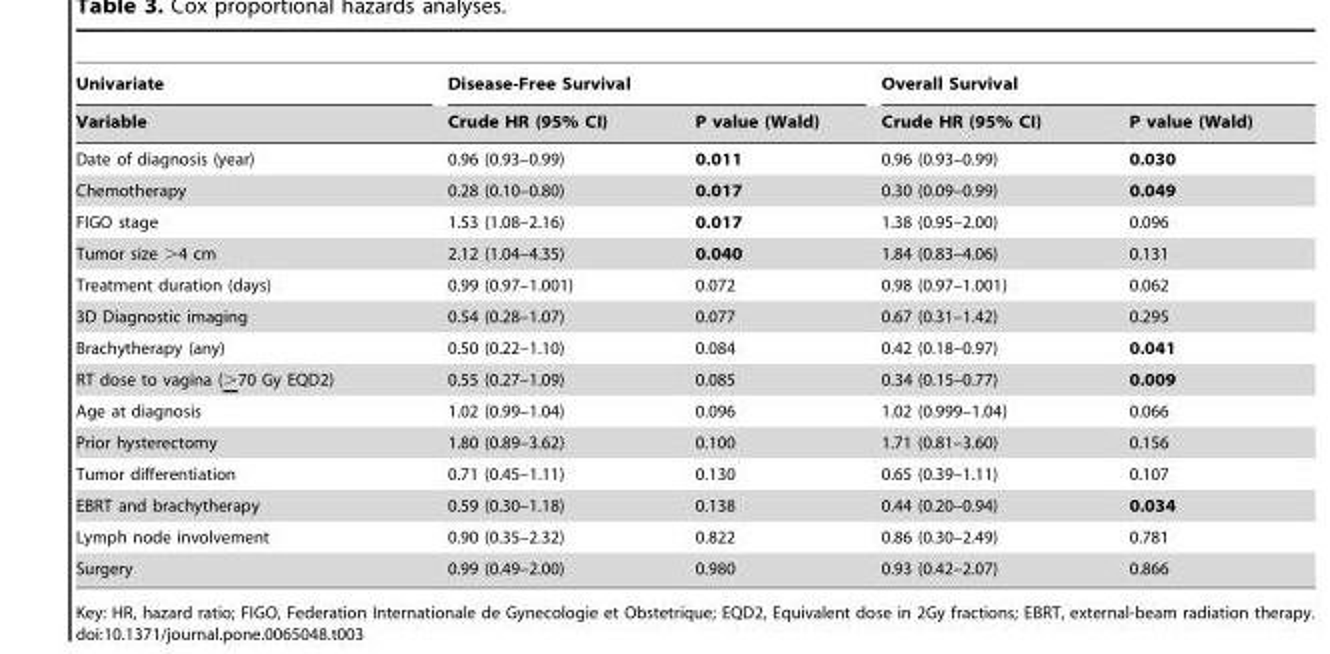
<table><thead><tr><td rowspan="2">Univariate Variable</td><td colspan="2">Disease-Free Survival</td><td colspan="2">Overall Survival</td></tr><tr><td>Crude HR (95% CI)</td><td>P value (Wald)</td><td>Crude HR (95% CI)</td><td>P value (Wald)</td></tr></thead><tbody><tr><td>Date of diagnosis (year)</td><td>0.96 (0.93–0.99)</td><td>0.011</td><td>0.96 (0.93–0.99)</td><td>0.030</td></tr><tr><td>Chemotherapy</td><td>0.28 (0.10–0.80)</td><td>0.017</td><td>0.30 (0.09–0.99)</td><td>0.049</td></tr><tr><td>FIGO stage</td><td>1.53 (1.08–2.16)</td><td>0.017</td><td>1.38 (0.95–2.00)</td><td>0.096</td></tr><tr><td>Tumor size &gt;4 cm</td><td>2.12 (1.04–4.35)</td><td>0.040</td><td>1.84 (0.83–4.06)</td><td>0.131</td></tr><tr><td>Treatment duration (days)</td><td>0.99 (0.97–1.001)</td><td>0.072</td><td>0.98 (0.97–1.001)</td><td>0.062</td></tr><tr><td>3D Diagnostic imaging</td><td>0.54 (0.28–1.07)</td><td>0.077</td><td>0.67 (0.31–1.42)</td><td>0.295</td></tr><tr><td>Brachytherapy (any)</td><td>0.50 (0.22–1.10)</td><td>0.084</td><td>0.42 (0.18–0.97)</td><td>0.041</td></tr><tr><td>RT dose to vagina (&gt;70 Gy EQD2)</td><td>0.55 (0.27–1.09)</td><td>0.085</td><td>0.34 (0.15–0.77)</td><td>0.009</td></tr><tr><td>Age at diagnosis</td><td>1.02 (0.99–1.04)</td><td>0.096</td><td>1.02 (0.999–1.04)</td><td>0.066</td></tr><tr><td>Prior hysterectomy</td><td>1.80 (0.89–3.62)</td><td>0.100</td><td>1.71 (0.81–3.60)</td><td>0.156</td></tr><tr><td>Tumor differentiation</td><td>0.71 (0.45–1.11)</td><td>0.130</td><td>0.65 (0.39–1.11)</td><td>0.107</td></tr><tr><td>EBRT and brachytherapy</td><td>0.59 (0.30–1.18)</td><td>0.138</td><td>0.44 (0.20–0.94)</td><td>0.034</td></tr><tr><td>Lymph node involvement</td><td>0.90 (0.35–2.32)</td><td>0.822</td><td>0.86 (0.30–2.49)</td><td>0.781</td></tr><tr><td>Surgery</td><td>0.99 (0.49–2.00)</td><td>0.980</td><td>0.93 (0.42–2.07)</td><td>0.866</td></tr></tbody></table>